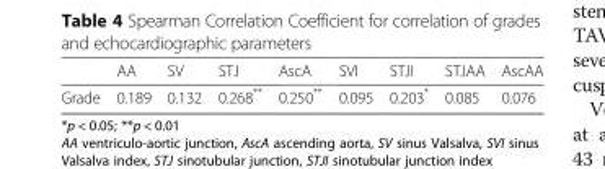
<table><thead><tr><td></td><td>AA</td><td>SV</td><td>STJ</td><td>AscA</td><td>SVI</td><td>STJI</td><td>STJAA</td><td>AscAA</td></tr></thead><tbody><tr><td>Grade</td><td>0.189</td><td>0.132</td><td>0.268**</td><td>0.250**</td><td>0.095</td><td>0.203*</td><td>0.085</td><td>0.076</td></tr></tbody></table>